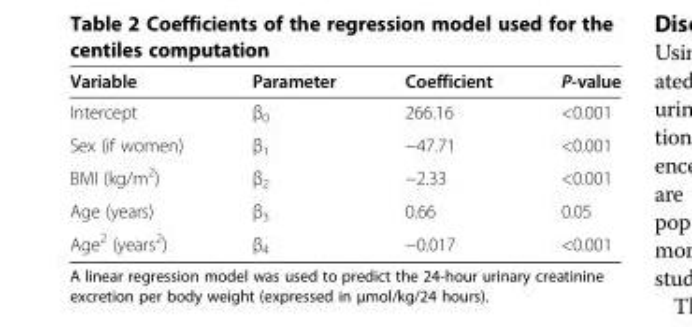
<table><thead><tr><td>Variable</td><td>Parameter</td><td>Coefficient</td><td>P-value</td></tr></thead><tbody><tr><td>Intercept</td><td>β<sub>0</sub></td><td>266.16</td><td>&lt;0.001</td></tr><tr><td>Sex (if women)</td><td>β<sub>1</sub></td><td>−47.71</td><td>&lt;0.001</td></tr><tr><td>BMI (kg/m<sup>2</sup>)</td><td>β<sub>2</sub></td><td>−2.33</td><td>&lt;0.001</td></tr><tr><td>Age (years)</td><td>β<sub>3</sub></td><td>0.66</td><td>0.05</td></tr><tr><td>Age<sup>2</sup> (years<sup>2</sup>)</td><td>β<sub>4</sub></td><td>−0.017</td><td>&lt;0.001</td></tr></tbody></table>